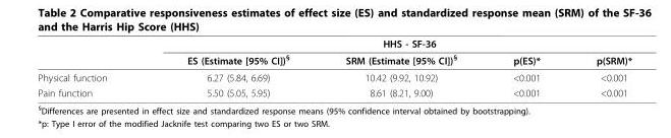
<table><thead><tr><td rowspan="2"></td><td colspan="4">HHS - SF-36</td></tr><tr><td>ES (Estimate [95% CI])<sup>§</sup></td><td>SRM (Estimate [95% CI])<sup>§</sup></td><td>p(ES)*</td><td>p(SRM)*</td></tr></thead><tbody><tr><td>Physical function</td><td>6.27 (5.84, 6.69)</td><td>10.42 (9.92, 10.92)</td><td>&lt;0.001</td><td>&lt;0.001</td></tr><tr><td>Pain function</td><td>5.50 (5.05, 5.95)</td><td>8.61 (8.21, 9.00)</td><td>&lt;0.001</td><td>&lt;0.001</td></tr></tbody></table>